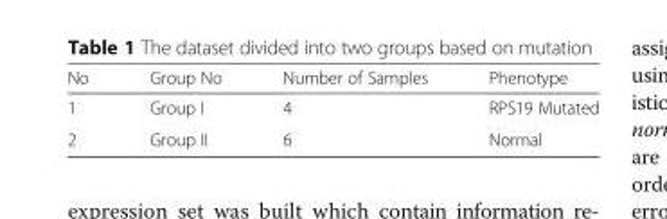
<table><thead><tr><td>No</td><td>Group No</td><td>Number of Samples</td><td>Phenotype</td></tr></thead><tbody><tr><td>1</td><td>Group I</td><td>4</td><td>RPS19 Mutated</td></tr><tr><td>2</td><td>Group II</td><td>6</td><td>Normal</td></tr></tbody></table>